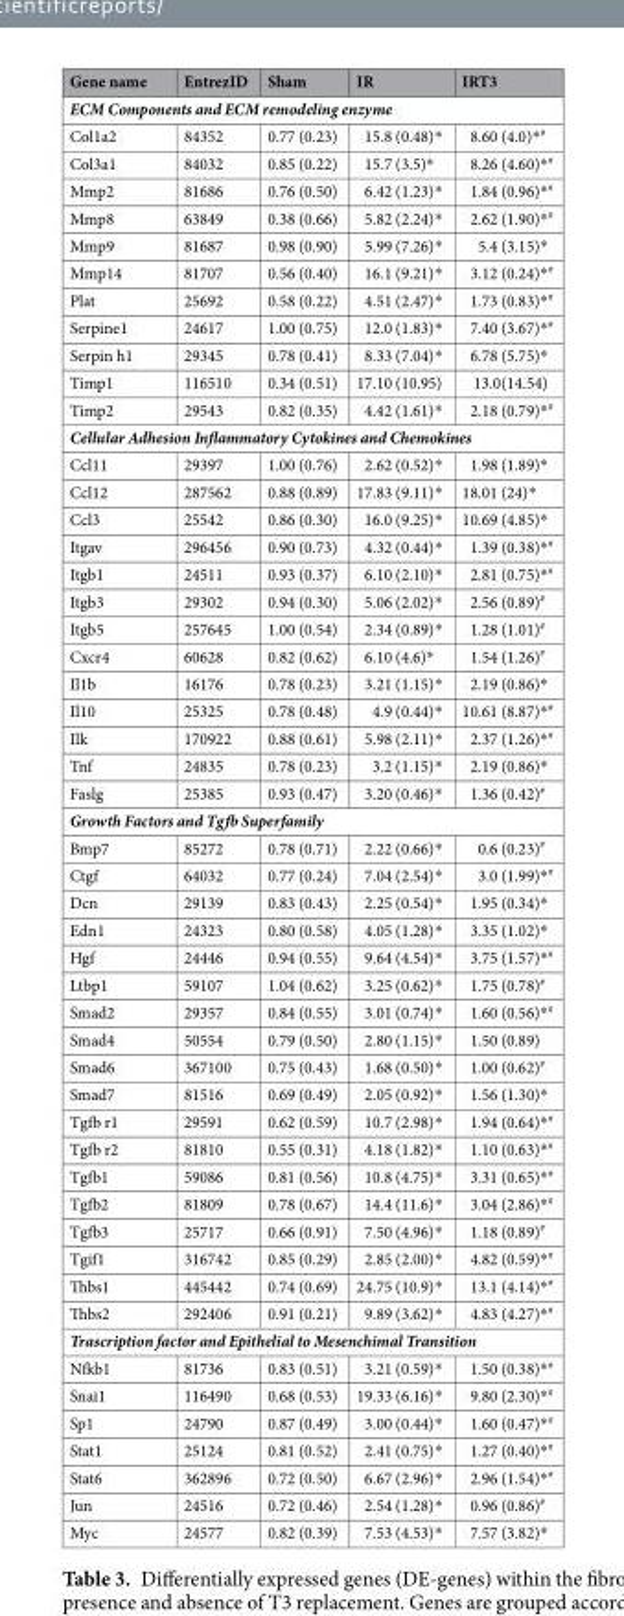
<table><thead><tr><td>Gene name</td><td>EntrezID</td><td>Sham</td><td>IR</td><td>IRT3</td></tr></thead><tbody><tr><td colspan="5">ECM Components and ECM remodeling enzyme</td></tr><tr><td>Col1a2</td><td>84352</td><td>0.77 (0.23)</td><td>15.8 (0.48)*</td><td>8.60 (4.0)*<sup>#</sup></td></tr><tr><td>Col3a1</td><td>84032</td><td>0.85 (0.22)</td><td>15.7 (3.5)*</td><td>8.26 (4.60)*<sup>#</sup></td></tr><tr><td>Mmp2</td><td>81686</td><td>0.76 (0.50)</td><td>6.42 (1.23)*</td><td>1.84 (0.96)*<sup>#</sup></td></tr><tr><td>Mmp8</td><td>63849</td><td>0.38 (0.66)</td><td>5.82 (2.24)*</td><td>2.62 (1.90)*<sup>#</sup></td></tr><tr><td>Mmp9</td><td>81687</td><td>0.98 (0.90)</td><td>5.99 (7.26)*</td><td>5.4 (3.15)*</td></tr><tr><td>Mmp14</td><td>81707</td><td>0.56 (0.40)</td><td>16.1 (9.21)*</td><td>3.12 (0.24)*<sup>#</sup></td></tr><tr><td>Plat</td><td>25692</td><td>0.58 (0.22)</td><td>4.51 (2.47)*</td><td>1.73 (0.83)*<sup>#</sup></td></tr><tr><td>Serpine1</td><td>24617</td><td>1.00 (0.75)</td><td>12.0 (1.83)*</td><td>7.40 (3.67)*<sup>#</sup></td></tr><tr><td>Serpin h1</td><td>29345</td><td>0.78 (0.41)</td><td>8.33 (7.04)*</td><td>6.78 (5.75)*</td></tr><tr><td>Timp1</td><td>116510</td><td>0.34 (0.51)</td><td>17.10 (10.95)</td><td>13.0(14.54)</td></tr><tr><td>Timp2</td><td>29543</td><td>0.82 (0.35)</td><td>4.42 (1.61)*</td><td>2.18 (0.79)*<sup>#</sup></td></tr><tr><td colspan="5">Cellular Adhesion Inflammatory Cytokines and Chemokines</td></tr><tr><td>Ccl11</td><td>29397</td><td>1.00 (0.76)</td><td>2.62 (0.52)*</td><td>1.98 (1.89)*</td></tr><tr><td>Ccl12</td><td>287562</td><td>0.88 (0.89)</td><td>17.83 (9.11)*</td><td>18.01 (24)*</td></tr><tr><td>Ccl3</td><td>25542</td><td>0.86 (0.30)</td><td>16.0 (9.25)*</td><td>10.69 (4.85)*</td></tr><tr><td>Itgav</td><td>296456</td><td>0.90 (0.73)</td><td>4.32 (0.44)*</td><td>1.39 (0.38)*<sup>#</sup></td></tr><tr><td>Itgb1</td><td>24511</td><td>0.93 (0.37)</td><td>6.10 (2.10)*</td><td>2.81 (0.75)*<sup>#</sup></td></tr><tr><td>Itgb3</td><td>29302</td><td>0.94 (0.30)</td><td>5.06 (2.02)*</td><td>2.56 (0.89)<sup>#</sup></td></tr><tr><td>Itgb5</td><td>257645</td><td>1.00 (0.54)</td><td>2.34 (0.89)*</td><td>1.28 (1.01)<sup>#</sup></td></tr><tr><td>Cxcr4</td><td>60628</td><td>0.82 (0.62)</td><td>6.10 (4.6)*</td><td>1.54 (1.26)<sup>#</sup></td></tr><tr><td>Il1b</td><td>16176</td><td>0.78 (0.23)</td><td>3.21 (1.15)*</td><td>2.19 (0.86)*</td></tr><tr><td>Il10</td><td>25325</td><td>0.78 (0.48)</td><td>4.9 (0.44)*</td><td>10.61 (8.87)*<sup>#</sup></td></tr><tr><td>Ilk</td><td>170922</td><td>0.88 (0.61)</td><td>5.98 (2.11)*</td><td>2.37 (1.26)*<sup>#</sup></td></tr><tr><td>Tnf</td><td>24835</td><td>0.78 (0.23)</td><td>3.2 (1.15)*</td><td>2.19 (0.86)*</td></tr><tr><td>Faslg</td><td>25385</td><td>0.93 (0.47)</td><td>3.20 (0.46)*</td><td>1.36 (0.42)<sup>#</sup></td></tr><tr><td colspan="5">Growth Factors and Tgfb Superfamily</td></tr><tr><td>Bmp7</td><td>85272</td><td>0.78 (0.71)</td><td>2.22 (0.66)*</td><td>0.6 (0.23)<sup>#</sup></td></tr><tr><td>Ctgf</td><td>64032</td><td>0.77 (0.24)</td><td>7.04 (2.54)*</td><td>3.0 (1.99)*<sup>#</sup></td></tr><tr><td>Dcn</td><td>29139</td><td>0.83 (0.43)</td><td>2.25 (0.54)*</td><td>1.95 (0.34)*</td></tr><tr><td>Edn1</td><td>24323</td><td>0.80 (0.58)</td><td>4.05 (1.28)*</td><td>3.35 (1.02)*</td></tr><tr><td>Hgf</td><td>24446</td><td>0.94 (0.55)</td><td>9.64 (4.54)*</td><td>3.75 (1.57)*<sup>#</sup></td></tr><tr><td>Ltbp1</td><td>59107</td><td>1.04 (0.62)</td><td>3.25 (0.62)*</td><td>1.75 (0.78)<sup>#</sup></td></tr><tr><td>Smad2</td><td>29357</td><td>0.84 (0.55)</td><td>3.01 (0.74)*</td><td>1.60 (0.56)*<sup>#</sup></td></tr><tr><td>Smad4</td><td>50554</td><td>0.79 (0.50)</td><td>2.80 (1.15)*</td><td>1.50 (0.89)</td></tr><tr><td>Smad6</td><td>367100</td><td>0.75 (0.43)</td><td>1.68 (0.50)*</td><td>1.00 (0.62)<sup>#</sup></td></tr><tr><td>Smad7</td><td>81516</td><td>0.69 (0.49)</td><td>2.05 (0.92)*</td><td>1.56 (1.30)*</td></tr><tr><td>Tgfb r1</td><td>29591</td><td>0.62 (0.59)</td><td>10.7 (2.98)*</td><td>1.94 (0.64)*<sup>#</sup></td></tr><tr><td>Tgfb r2</td><td>81810</td><td>0.55 (0.31)</td><td>4.18 (1.82)*</td><td>1.10 (0.63)*<sup>#</sup></td></tr><tr><td>Tgfb1</td><td>59086</td><td>0.81 (0.56)</td><td>10.8 (4.75)*</td><td>3.31 (0.65)*<sup>#</sup></td></tr><tr><td>Tgfb2</td><td>81809</td><td>0.78 (0.67)</td><td>14.4 (11.6)*</td><td>3.04 (2.86)*<sup>#</sup></td></tr><tr><td>Tgfb3</td><td>25717</td><td>0.66 (0.91)</td><td>7.50 (4.96)*</td><td>1.18 (0.89)<sup>#</sup></td></tr><tr><td>Tgif1</td><td>316742</td><td>0.85 (0.29)</td><td>2.85 (2.00)*</td><td>4.82 (0.59)*<sup>#</sup></td></tr><tr><td>Thbs1</td><td>445442</td><td>0.74 (0.69)</td><td>24.75 (10.9)*</td><td>13.1 (4.14)*<sup>#</sup></td></tr><tr><td>Thbs2</td><td>292406</td><td>0.91 (0.21)</td><td>9.89 (3.62)*</td><td>4.83 (4.27)*<sup>#</sup></td></tr><tr><td colspan="5">Trascription factor and Epithelial to Mesenchimal Transition</td></tr><tr><td>Nfkb1</td><td>81736</td><td>0.83 (0.51)</td><td>3.21 (0.59)*</td><td>1.50 (0.38)*<sup>#</sup></td></tr><tr><td>Snai1</td><td>116490</td><td>0.68 (0.53)</td><td>19.33 (6.16)*</td><td>9.80 (2.30)*<sup>#</sup></td></tr><tr><td>Sp1</td><td>24790</td><td>0.87 (0.49)</td><td>3.00 (0.44)*</td><td>1.60 (0.47)*<sup>#</sup></td></tr><tr><td>Stat1</td><td>25124</td><td>0.81 (0.52)</td><td>2.41 (0.75)*</td><td>1.27 (0.40)*<sup>#</sup></td></tr><tr><td>Stat6</td><td>362896</td><td>0.72 (0.50)</td><td>6.67 (2.96)*</td><td>2.96 (1.54)*<sup>#</sup></td></tr><tr><td>Jun</td><td>24516</td><td>0.72 (0.46)</td><td>2.54 (1.28)*</td><td>0.96 (0.86)<sup>#</sup></td></tr><tr><td>Myc</td><td>24577</td><td>0.82 (0.39)</td><td>7.53 (4.53)*</td><td>7.57 (3.82)*</td></tr></tbody></table>